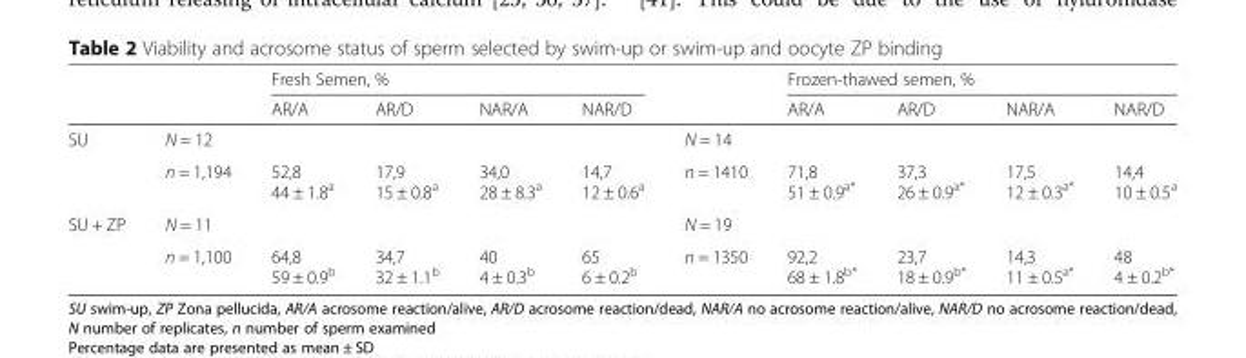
<table><thead><tr><td rowspan="2"></td><td rowspan="2"></td><td colspan="4">Fresh Semen, %</td><td rowspan="2"></td><td colspan="4">Frozen-thawed semen, %</td></tr><tr><td>AR/A</td><td>AR/D</td><td>NAR/A</td><td>NAR/D</td><td>AR/A</td><td>AR/D</td><td>NAR/A</td><td>NAR/D</td></tr></thead><tbody><tr><td rowspan="2">SU</td><td colspan="5">N = 12</td><td colspan="5">N = 14</td></tr><tr><td>n = 1,194</td><td>52,8 44 ± 1.8<sup>a</sup></td><td>17,9 15 ± 0.8<sup>a</sup></td><td>34,0 28 ± 8.3<sup>a</sup></td><td>14,7 12 ± 0.6<sup>a</sup></td><td>n = 1410</td><td>71,8 51 ± 0.9<sup>a*</sup></td><td>37,3 26 ± 0.9<sup>a*</sup></td><td>17,5 12 ± 0.3<sup>a*</sup></td><td>14,4 10 ± 0.5<sup>a</sup></td></tr><tr><td rowspan="2">SU + ZP</td><td colspan="5">N = 11</td><td colspan="5">N = 19</td></tr><tr><td>n = 1,100</td><td>64,8 59 ± 0.9<sup>b</sup></td><td>34,7 32 ± 1.1<sup>b</sup></td><td>40 4 ± 0.3<sup>b</sup></td><td>65 6 ± 0.2<sup>b</sup></td><td>n = 1350</td><td>92,2 68 ± 1.8<sup>b*</sup></td><td>23,7 18 ± 0.9<sup>b*</sup></td><td>14,3 11 ± 0.5<sup>a*</sup></td><td>48 4 ± 0.2<sup>b*</sup></td></tr></tbody></table>